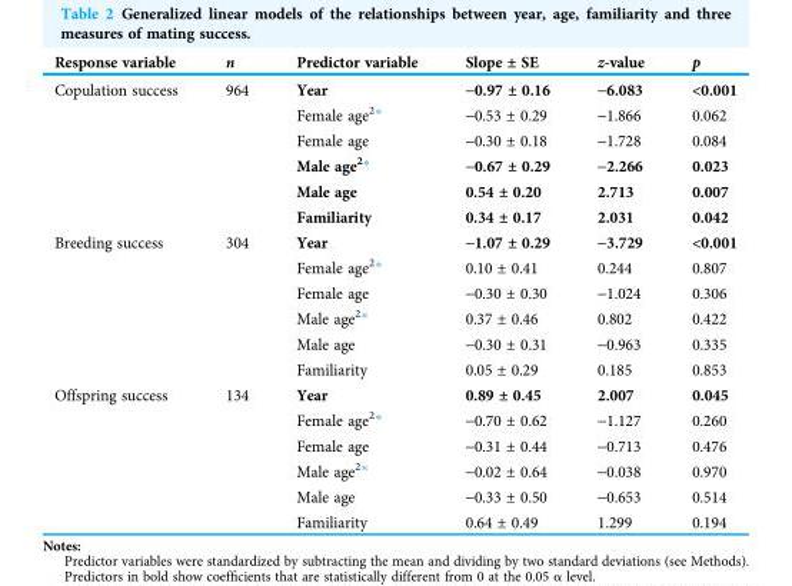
<table><thead><tr><td>Response variable</td><td>n</td><td>Predictor variable</td><td>Slope ± SE</td><td>z-value</td><td>p</td></tr></thead><tbody><tr><td rowspan="6">Copulation success</td><td>964</td><td>Year</td><td>-0.97 ± 0.16</td><td>-6.083</td><td>&lt;0.001</td></tr><tr><td></td><td>Female age<sup>2</sup>*</td><td>-0.53 ± 0.29</td><td>-1.866</td><td>0.062</td></tr><tr><td></td><td>Female age</td><td>-0.30 ± 0.18</td><td>-1.728</td><td>0.084</td></tr><tr><td></td><td>Male age<sup>2</sup>*</td><td>-0.67 ± 0.29</td><td>-2.266</td><td>0.023</td></tr><tr><td></td><td>Male age</td><td>0.54 ± 0.20</td><td>2.713</td><td>0.007</td></tr><tr><td></td><td>Familiarity</td><td>0.34 ± 0.17</td><td>2.031</td><td>0.042</td></tr><tr><td rowspan="6">Breeding success</td><td>304</td><td>Year</td><td>-1.07 ± 0.29</td><td>-3.729</td><td>&lt;0.001</td></tr><tr><td></td><td>Female age<sup>2</sup>*</td><td>0.10 ± 0.41</td><td>0.244</td><td>0.807</td></tr><tr><td></td><td>Female age</td><td>-0.30 ± 0.30</td><td>-1.024</td><td>0.306</td></tr><tr><td></td><td>Male age<sup>2</sup>*</td><td>0.37 ± 0.46</td><td>0.802</td><td>0.422</td></tr><tr><td></td><td>Male age</td><td>-0.30 ± 0.31</td><td>-0.963</td><td>0.335</td></tr><tr><td></td><td>Familiarity</td><td>0.05 ± 0.29</td><td>0.185</td><td>0.853</td></tr><tr><td rowspan="6">Offspring success</td><td>134</td><td>Year</td><td>0.89 ± 0.45</td><td>2.007</td><td>0.045</td></tr><tr><td></td><td>Female age<sup>2</sup>*</td><td>-0.70 ± 0.62</td><td>-1.127</td><td>0.260</td></tr><tr><td></td><td>Female age</td><td>-0.31 ± 0.44</td><td>-0.713</td><td>0.476</td></tr><tr><td></td><td>Male age<sup>2</sup>*</td><td>-0.02 ± 0.64</td><td>-0.038</td><td>0.970</td></tr><tr><td></td><td>Male age</td><td>-0.33 ± 0.50</td><td>-0.653</td><td>0.514</td></tr><tr><td></td><td>Familiarity</td><td>0.64 ± 0.49</td><td>1.299</td><td>0.194</td></tr></tbody></table>